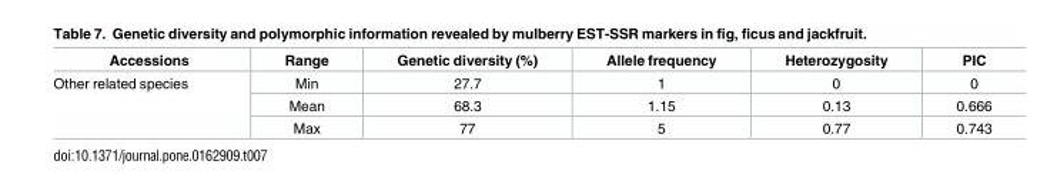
<table><thead><tr><td>Accessions</td><td>Range</td><td>Genetic diversity (%)</td><td>Allele frequency</td><td>Heterozygosity</td><td>PIC</td></tr></thead><tbody><tr><td rowspan="3">Other related species</td><td>Min</td><td>27.7</td><td>1</td><td>0</td><td>0</td></tr><tr><td>Mean</td><td>68.3</td><td>1.15</td><td>0.13</td><td>0.666</td></tr><tr><td>Max</td><td>77</td><td>5</td><td>0.77</td><td>0.743</td></tr></tbody></table>